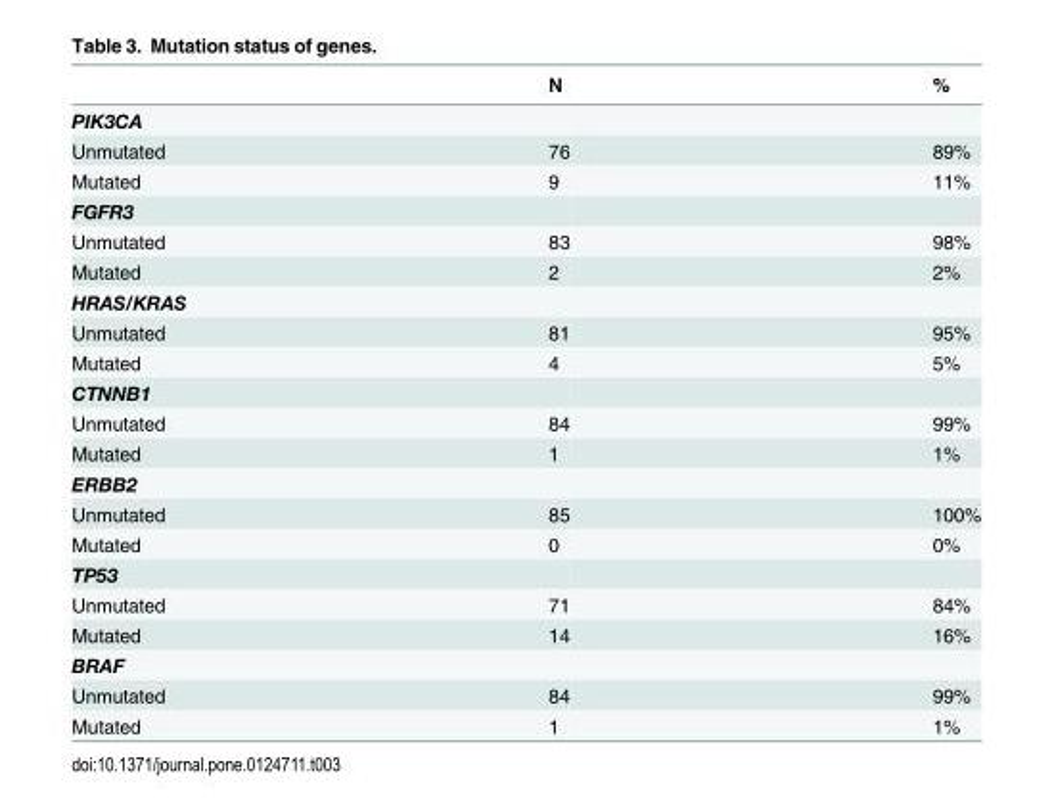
<table><thead><tr><td></td><td>N</td><td>%</td></tr></thead><tbody><tr><td colspan="3">PIK3CA</td></tr><tr><td>Unmutated</td><td>76</td><td>89%</td></tr><tr><td>Mutated</td><td>9</td><td>11%</td></tr><tr><td colspan="3">FGFR3</td></tr><tr><td>Unmutated</td><td>83</td><td>98%</td></tr><tr><td>Mutated</td><td>2</td><td>2%</td></tr><tr><td colspan="3">HRAS/KRAS</td></tr><tr><td>Unmutated</td><td>81</td><td>95%</td></tr><tr><td>Mutated</td><td>4</td><td>5%</td></tr><tr><td colspan="3">CTNNB1</td></tr><tr><td>Unmutated</td><td>84</td><td>99%</td></tr><tr><td>Mutated</td><td>1</td><td>1%</td></tr><tr><td colspan="3">ERBB2</td></tr><tr><td>Unmutated</td><td>85</td><td>100%</td></tr><tr><td>Mutated</td><td>0</td><td>0%</td></tr><tr><td colspan="3">TP53</td></tr><tr><td>Unmutated</td><td>71</td><td>84%</td></tr><tr><td>Mutated</td><td>14</td><td>16%</td></tr><tr><td colspan="3">BRAF</td></tr><tr><td>Unmutated</td><td>84</td><td>99%</td></tr><tr><td>Mutated</td><td>1</td><td>1%</td></tr></tbody></table>